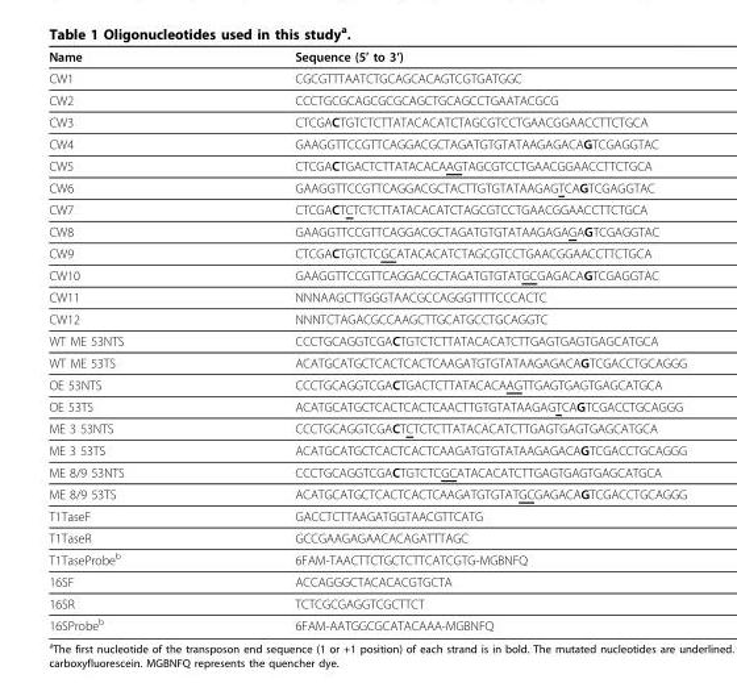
<table><thead><tr><td>Name</td><td>Sequence (5’ to 3’)</td></tr></thead><tbody><tr><td>CW1</td><td>CGCGTTTAATCTGCAGCACAGTCGTGATGGC</td></tr><tr><td>CW2</td><td>CCCTGCGCAGCGCGCAGCTGCAGCCTGAATACGCG</td></tr><tr><td>CW3</td><td>CTCGACTGTCTCTTATACACATCTAGCGTCCTGAACGGAACCTTCTGCA</td></tr><tr><td>CW4</td><td>GAAGGTTCCGTTCAGGACGCTAGATGTGTATAAGAGACAGTCGAGGTAC</td></tr><tr><td>CW5</td><td>CTCGACTGACTCTTATACACAAGTAGCGTCCTGAACGGAACCTTCTGCA</td></tr><tr><td>CW6</td><td>GAAGGTTCCGTTCAGGACGCTACTTGTGTATAAGAGTCAGTCGAGGTAC</td></tr><tr><td>CW7</td><td>CTCGACTCTCTCTTATACACATCTAGCGTCCTGAACGGAACCTTCTGCA</td></tr><tr><td>CW8</td><td>GAAGGTTCCGTTCAGGACGCTAGATGTGTATAAGAGAGAGTCGAGGTAC</td></tr><tr><td>CW9</td><td>CTCGACTGTCTCGCATACACATCTAGCGTCCTGAACGGAACCTTCTGCA</td></tr><tr><td>CW10</td><td>GAAGGTTCCGTTCAGGACGCTAGATGTGTATGCGAGACAGTCGAGGTAC</td></tr><tr><td>CW11</td><td>NNNAAGCTTGGGTAACGCCAGGGTTTTCCCACTC</td></tr><tr><td>CW12</td><td>NNNTCTAGACGCCAAGCTTGCATGCCTGCAGGTC</td></tr><tr><td>WT ME 53NTS</td><td>CCCTGCAGGTCGACTGTCTCTTATACACATCTTGAGTGAGTGAGCATGCA</td></tr><tr><td>WT ME 53TS</td><td>ACATGCATGCTCACTCACTCAAGATGTGTATAAGAGACAGTCGACCTGCAGGG</td></tr><tr><td>OE 53NTS</td><td>CCCTGCAGGTCGACTGACTCTTATACACAAGTTGAGTGAGTGAGCATGCA</td></tr><tr><td>OE 53TS</td><td>ACATGCATGCTCACTCACTCAACTTGTGTATAAGAGTCAGTCGACCTGCAGGG</td></tr><tr><td>ME 3 53NTS</td><td>CCCTGCAGGTCGACTCTCTCTTATACACATCTTGAGTGAGTGAGCATGCA</td></tr><tr><td>ME 3 53TS</td><td>ACATGCATGCTCACTCACTCAAGATGTGTATAAGAGACAGTCGACCTGCAGGG</td></tr><tr><td>ME 8/9 53NTS</td><td>CCCTGCAGGTCGACTGTCTCGCATACACATCTTGAGTGAGTGAGCATGCA</td></tr><tr><td>ME 8/9 53TS</td><td>ACATGCATGCTCACTCACTCAAGATGTGTATGCGAGACAGTCGACCTGCAGGG</td></tr><tr><td>T1TaseF</td><td>GACCTCTTAAGATGGTAACGTTCATG</td></tr><tr><td>T1TaseR</td><td>GCCGAAGAGAACACAGATTTAGC</td></tr><tr><td>T1TaseProbe<sup>b</sup></td><td>6FAM-TAACTTCTGCTCTTCATCGTG-MGBNFQ</td></tr><tr><td>16SF</td><td>ACCAGGGCTACACACGTGCTA</td></tr><tr><td>16SR</td><td>TCTCGCGAGGTCGCTTCT</td></tr><tr><td>16SProbe<sup>b</sup></td><td>6FAM-AATGGCGCATACAAA-MGBNFQ</td></tr></tbody></table>